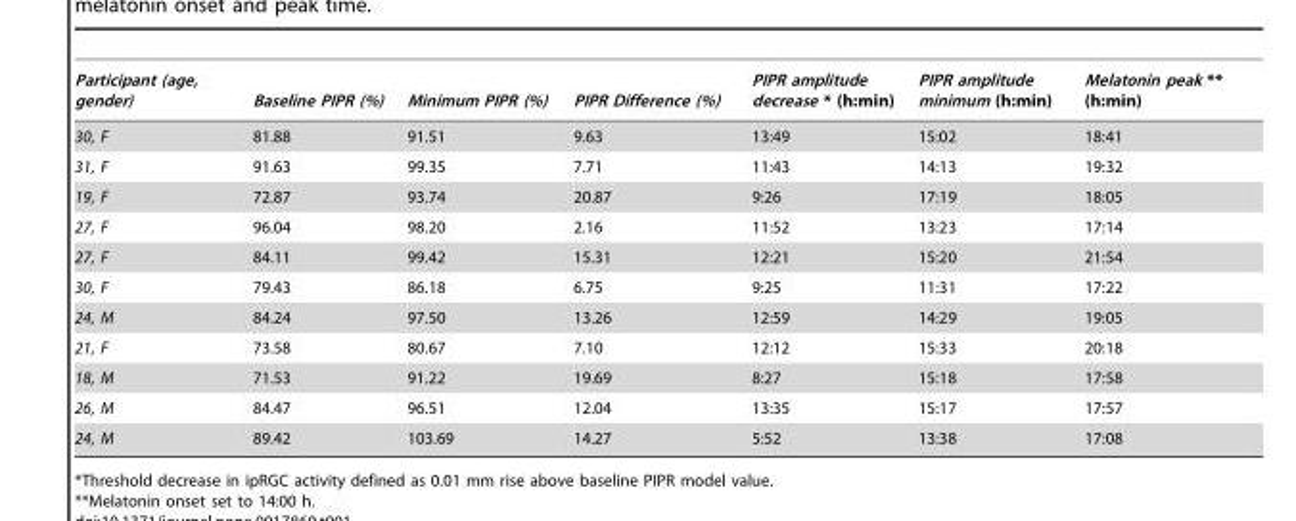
<table><thead><tr><td>Participant (age, gender)</td><td>Baseline PIPR (%)</td><td>Minimum PIPR (%)</td><td>PIPR Difference (%)</td><td>PIPR amplitude decrease * (h:min)</td><td>PIPR amplitude minimum (h:min)</td><td>Melatonin peak ** (h:min)</td></tr></thead><tbody><tr><td>30, F</td><td>81.88</td><td>91.51</td><td>9.63</td><td>13:49</td><td>15:02</td><td>18:41</td></tr><tr><td>31, F</td><td>91.63</td><td>99.35</td><td>7.71</td><td>11:43</td><td>14:13</td><td>19:32</td></tr><tr><td>19, F</td><td>72.87</td><td>93.74</td><td>20.87</td><td>9:26</td><td>17:19</td><td>18:05</td></tr><tr><td>27, F</td><td>96.04</td><td>98.20</td><td>2.16</td><td>11:52</td><td>13:23</td><td>17:14</td></tr><tr><td>27, F</td><td>84.11</td><td>99.42</td><td>15.31</td><td>12:21</td><td>15:20</td><td>21:54</td></tr><tr><td>30, F</td><td>79.43</td><td>86.18</td><td>6.75</td><td>9:25</td><td>11:31</td><td>17:22</td></tr><tr><td>24, M</td><td>84.24</td><td>97.50</td><td>13.26</td><td>12:59</td><td>14:29</td><td>19:05</td></tr><tr><td>21, F</td><td>73.58</td><td>80.67</td><td>7.10</td><td>12:12</td><td>15:33</td><td>20:18</td></tr><tr><td>18, M</td><td>71.53</td><td>91.22</td><td>19.69</td><td>8:27</td><td>15:18</td><td>17:58</td></tr><tr><td>26, M</td><td>84.47</td><td>96.51</td><td>12.04</td><td>13:35</td><td>15:17</td><td>17:57</td></tr><tr><td>24, M</td><td>89.42</td><td>103.69</td><td>14.27</td><td>5:52</td><td>13:38</td><td>17:08</td></tr></tbody></table>